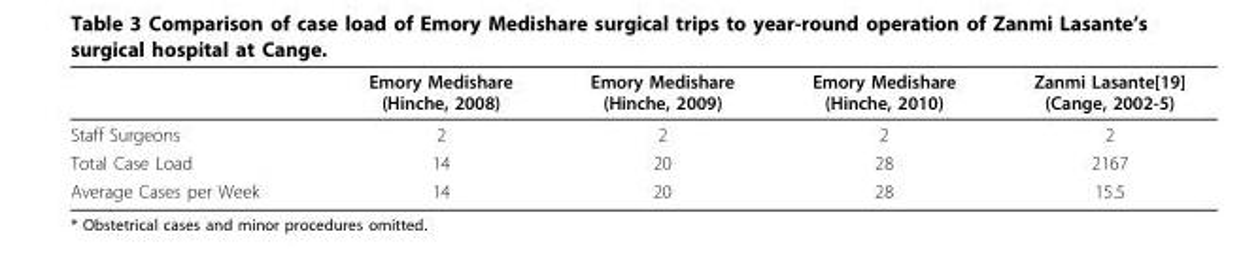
<table><thead><tr><td></td><td>Emory Medishare (Hinche, 2008)</td><td>Emory Medishare (Hinche, 2009)</td><td>Emory Medishare (Hinche, 2010)</td><td>Zanmi Lasante[19] (Cange, 2002-5)</td></tr></thead><tbody><tr><td>Staff Surgeons</td><td>2</td><td>2</td><td>2</td><td>2</td></tr><tr><td>Total Case Load</td><td>14</td><td>20</td><td>28</td><td>2167</td></tr><tr><td>Average Cases per Week</td><td>14</td><td>20</td><td>28</td><td>15.5</td></tr></tbody></table>